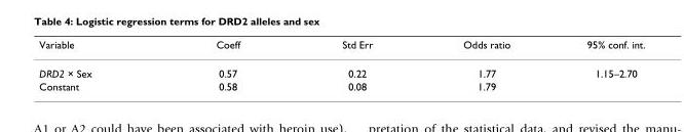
<table><thead><tr><td>Variable</td><td>Coeff</td><td>Std Err</td><td>Odds ratio</td><td>95% conf. int.</td></tr></thead><tbody><tr><td>DRD2 × Sex</td><td>0.57</td><td>0.22</td><td>1.77</td><td>1.15–2.70</td></tr><tr><td>Constant</td><td>0.58</td><td>0.08</td><td>1.79</td><td></td></tr></tbody></table>